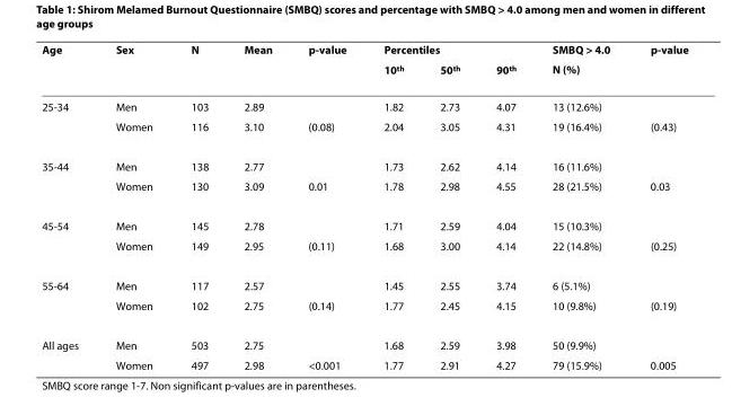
<table><thead><tr><td rowspan="2">Age</td><td rowspan="2">Sex</td><td rowspan="2">N</td><td rowspan="2">Mean</td><td rowspan="2">p-value</td><td colspan="3">Percentiles</td><td rowspan="2">SMBQ &gt; 4.0 N (%)</td><td rowspan="2">p-value</td></tr><tr><td>10<sup>th</sup></td><td>50<sup>th</sup></td><td>90<sup>th</sup></td></tr></thead><tbody><tr><td rowspan="2">25-34</td><td>Men</td><td>103</td><td>2.89</td><td></td><td>1.82</td><td>2.73</td><td>4.07</td><td>13 (12.6%)</td><td></td></tr><tr><td>Women</td><td>116</td><td>3.10</td><td>(0.08)</td><td>2.04</td><td>3.05</td><td>4.31</td><td>19 (16.4%)</td><td>(0.43)</td></tr><tr><td rowspan="2">35-44</td><td>Men</td><td>138</td><td>2.77</td><td></td><td>1.73</td><td>2.62</td><td>4.14</td><td>16 (11.6%)</td><td></td></tr><tr><td>Women</td><td>130</td><td>3.09</td><td>0.01</td><td>1.78</td><td>2.98</td><td>4.55</td><td>28 (21.5%)</td><td>0.03</td></tr><tr><td rowspan="2">45-54</td><td>Men</td><td>145</td><td>2.78</td><td></td><td>1.71</td><td>2.59</td><td>4.04</td><td>15 (10.3%)</td><td></td></tr><tr><td>Women</td><td>149</td><td>2.95</td><td>(0.11)</td><td>1.68</td><td>3.00</td><td>4.14</td><td>22 (14.8%)</td><td>(0.25)</td></tr><tr><td rowspan="2">55-64</td><td>Men</td><td>117</td><td>2.57</td><td></td><td>1.45</td><td>2.55</td><td>3.74</td><td>6 (5.1%)</td><td></td></tr><tr><td>Women</td><td>102</td><td>2.75</td><td>(0.14)</td><td>1.77</td><td>2.45</td><td>4.15</td><td>10 (9.8%)</td><td>(0.19)</td></tr><tr><td rowspan="2">All ages</td><td>Men</td><td>503</td><td>2.75</td><td></td><td>1.68</td><td>2.59</td><td>3.98</td><td>50 (9.9%)</td><td></td></tr><tr><td>Women</td><td>497</td><td>2.98</td><td>&lt;0.001</td><td>1.77</td><td>2.91</td><td>4.27</td><td>79 (15.9%)</td><td>0.005</td></tr></tbody></table>